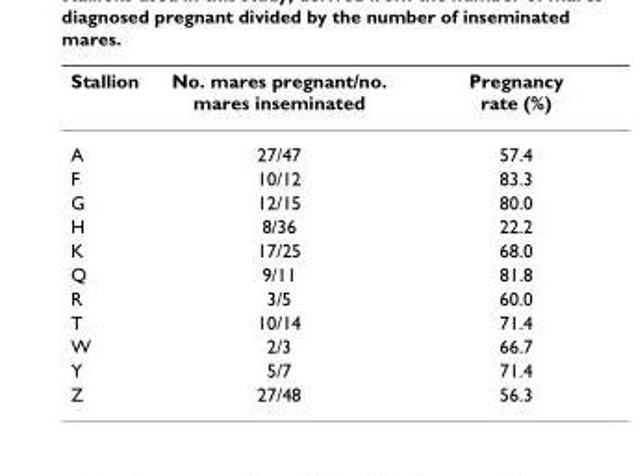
<table><thead><tr><td>Stallion</td><td>No. mares pregnant/no. mares inseminated</td><td>Pregnancy rate (%)</td></tr></thead><tbody><tr><td>A</td><td>27/47</td><td>57.4</td></tr><tr><td>F</td><td>10/12</td><td>83.3</td></tr><tr><td>G</td><td>12/15</td><td>80.0</td></tr><tr><td>H</td><td>8/36</td><td>22.2</td></tr><tr><td>K</td><td>17/25</td><td>68.0</td></tr><tr><td>Q</td><td>9/11</td><td>81.8</td></tr><tr><td>R</td><td>3/5</td><td>60.0</td></tr><tr><td>T</td><td>10/14</td><td>71.4</td></tr><tr><td>W</td><td>2/3</td><td>66.7</td></tr><tr><td>Y</td><td>5/7</td><td>71.4</td></tr><tr><td>Z</td><td>27/48</td><td>56.3</td></tr></tbody></table>